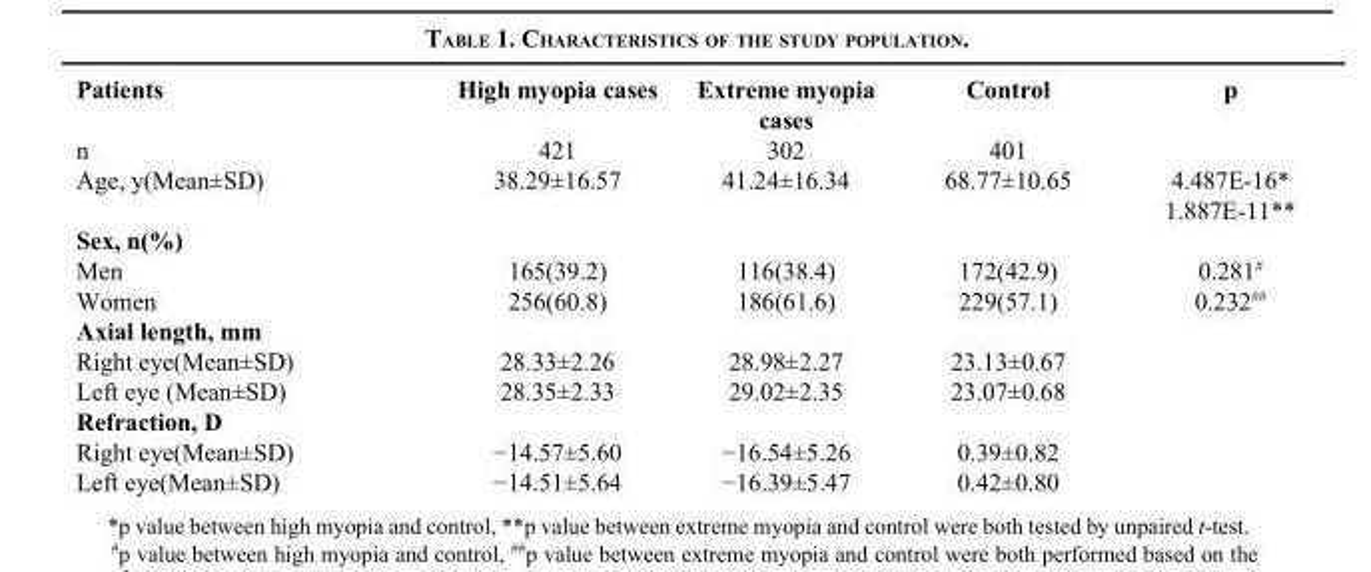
<table><thead><tr><td>Patients</td><td>High myopia cases</td><td>Extreme myopia cases</td><td>Control</td><td>p</td></tr></thead><tbody><tr><td>n</td><td>421</td><td>302</td><td>401</td><td></td></tr><tr><td rowspan="2">Age, y(Mean±SD)</td><td>38.29±16.57</td><td>41.24±16.34</td><td>68.77±10.65</td><td>4.487E-16*</td></tr><tr><td></td><td></td><td></td><td>1.887E-11**</td></tr><tr><td colspan="5">Sex, n(%)</td></tr><tr><td>Men</td><td>165(39.2)</td><td>116(38.4)</td><td>172(42.9)</td><td>0.281<sup>#</sup></td></tr><tr><td>Women</td><td>256(60.8)</td><td>186(61.6)</td><td>229(57.1)</td><td>0.232<sup>##</sup></td></tr><tr><td colspan="5">Axial length, mm</td></tr><tr><td>Right eye(Mean±SD)</td><td>28.33±2.26</td><td>28.98±2.27</td><td>23.13±0.67</td><td></td></tr><tr><td>Left eye (Mean±SD)</td><td>28.35±2.33</td><td>29.02±2.35</td><td>23.07±0.68</td><td></td></tr><tr><td colspan="5">Refraction, D</td></tr><tr><td>Right eye(Mean±SD)</td><td>−14.57±5.60</td><td>−16.54±5.26</td><td>0.39±0.82</td><td></td></tr><tr><td>Left eye(Mean±SD)</td><td>−14.51±5.64</td><td>−16.39±5.47</td><td>0.42±0.80</td><td></td></tr></tbody></table>